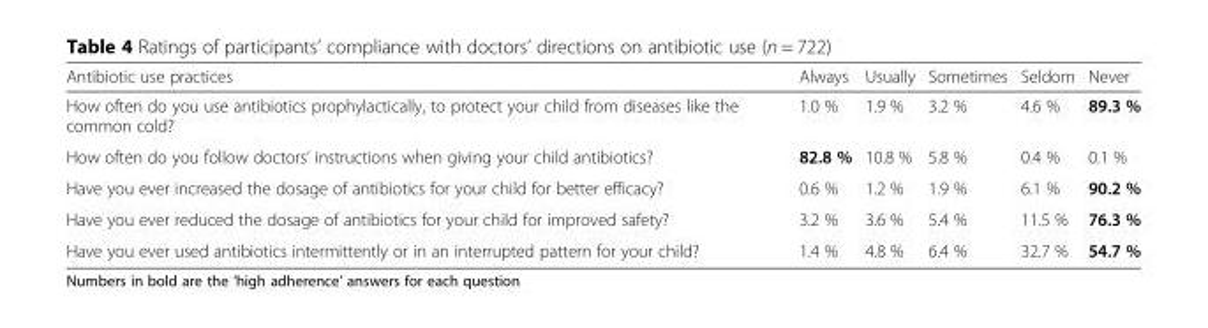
<table><thead><tr><td>Antibiotic use practices</td><td>Always</td><td>Usually</td><td>Sometimes</td><td>Seldom</td><td>Never</td></tr></thead><tbody><tr><td>How often do you use antibiotics prophylactically, to protect your child from diseases like the common cold?</td><td>1.0 %</td><td>1.9 %</td><td>3.2 %</td><td>4.6 %</td><td>89.3 %</td></tr><tr><td>How often do you follow doctors’ instructions when giving your child antibiotics?</td><td>82.8 %</td><td>10.8 %</td><td>5.8 %</td><td>0.4 %</td><td>0.1 %</td></tr><tr><td>Have you ever increased the dosage of antibiotics for your child for better efficacy?</td><td>0.6 %</td><td>1.2 %</td><td>1.9 %</td><td>6.1 %</td><td>90.2 %</td></tr><tr><td>Have you ever reduced the dosage of antibiotics for your child for improved safety?</td><td>3.2 %</td><td>3.6 %</td><td>5.4 %</td><td>11.5 %</td><td>76.3 %</td></tr><tr><td>Have you ever used antibiotics intermittently or in an interrupted pattern for your child?</td><td>1.4 %</td><td>4.8 %</td><td>6.4 %</td><td>32.7 %</td><td>54.7 %</td></tr></tbody></table>